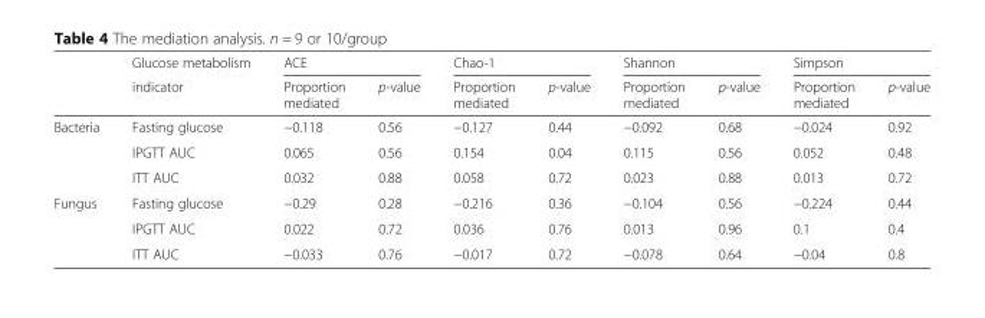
<table><thead><tr><td rowspan="2"></td><td rowspan="2">Glucose metabolism indicator</td><td colspan="2">ACE</td><td colspan="2">Chao-1</td><td colspan="2">Shannon</td><td colspan="2">Simpson</td></tr><tr><td>Proportion mediated</td><td>p-value</td><td>Proportion mediated</td><td>p-value</td><td>Proportion mediated</td><td>p-value</td><td>Proportion mediated</td><td>p-value</td></tr></thead><tbody><tr><td rowspan="3">Bacteria</td><td>Fasting glucose</td><td>−0.118</td><td>0.56</td><td>−0.127</td><td>0.44</td><td>−0.092</td><td>0.68</td><td>−0.024</td><td>0.92</td></tr><tr><td>IPGTT AUC</td><td>0.065</td><td>0.56</td><td>0.154</td><td>0.04</td><td>0.115</td><td>0.56</td><td>0.052</td><td>0.48</td></tr><tr><td>ITT AUC</td><td>0.032</td><td>0.88</td><td>0.058</td><td>0.72</td><td>0.023</td><td>0.88</td><td>0.013</td><td>0.72</td></tr><tr><td rowspan="3">Fungus</td><td>Fasting glucose</td><td>−0.29</td><td>0.28</td><td>−0.216</td><td>0.36</td><td>−0.104</td><td>0.56</td><td>−0.224</td><td>0.44</td></tr><tr><td>IPGTT AUC</td><td>0.022</td><td>0.72</td><td>0.036</td><td>0.76</td><td>0.013</td><td>0.96</td><td>0.1</td><td>0.4</td></tr><tr><td>ITT AUC</td><td>−0.033</td><td>0.76</td><td>−0.017</td><td>0.72</td><td>−0.078</td><td>0.64</td><td>−0.04</td><td>0.8</td></tr></tbody></table>